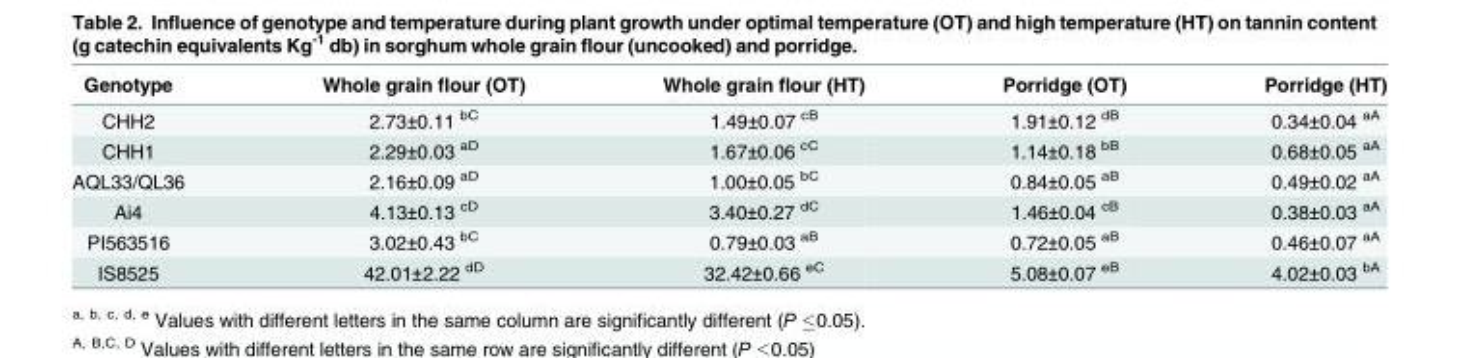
<table><thead><tr><td>Genotype</td><td>Whole grain flour (OT)</td><td>Whole grain flour (HT)</td><td>Porridge (OT)</td><td>Porridge (HT)</td></tr></thead><tbody><tr><td>CHH2</td><td>2.73±0.11 <sup>bC</sup></td><td>1.49±0.07 <sup>cB</sup></td><td>1.91±0.12 <sup>dB</sup></td><td>0.34±0.04 <sup>aA</sup></td></tr><tr><td>CHH1</td><td>2.29±0.03 <sup>aD</sup></td><td>1.67±0.06 <sup>cC</sup></td><td>1.14±0.18 <sup>bB</sup></td><td>0.68±0.05 <sup>aA</sup></td></tr><tr><td>AQL33/QL36</td><td>2.16±0.09 <sup>aD</sup></td><td>1.00±0.05 <sup>bC</sup></td><td>0.84±0.05 <sup>aB</sup></td><td>0.49±0.02 <sup>aA</sup></td></tr><tr><td>Ai4</td><td>4.13±0.13 <sup>cD</sup></td><td>3.40±0.27 <sup>dC</sup></td><td>1.46±0.04 <sup>cB</sup></td><td>0.38±0.03 <sup>aA</sup></td></tr><tr><td>PI563516</td><td>3.02±0.43 <sup>bC</sup></td><td>0.79±0.03 <sup>aB</sup></td><td>0.72±0.05 <sup>aB</sup></td><td>0.46±0.07 <sup>aA</sup></td></tr><tr><td>IS8525</td><td>42.01±2.22 <sup>dD</sup></td><td>32.42±0.66 <sup>eC</sup></td><td>5.08±0.07 <sup>eB</sup></td><td>4.02±0.03 <sup>bA</sup></td></tr></tbody></table>